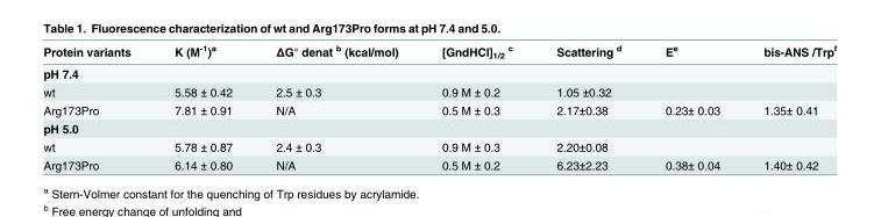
<table><thead><tr><td>Protein variants</td><td>K (M<sup>-1</sup>)<sup>a</sup></td><td>ΔG° denat <sup>b</sup> (kcal/mol)</td><td>[GndHCl]<sub>1/2</sub> <sup>c</sup></td><td>Scattering <sup>d</sup></td><td>E<sup>e</sup></td><td>bis-ANS /Trp<sup>f</sup></td></tr></thead><tbody><tr><td colspan="7">pH 7.4</td></tr><tr><td>wt</td><td>5.58 ± 0.42</td><td>2.5 ± 0.3</td><td>0.9 M ± 0.2</td><td>1.05 ±0.32</td><td></td><td></td></tr><tr><td>Arg173Pro</td><td>7.81 ± 0.91</td><td>N/A</td><td>0.5 M ± 0.3</td><td>2.17±0.38</td><td>0.23± 0.03</td><td>1.35± 0.41</td></tr><tr><td colspan="7">pH 5.0</td></tr><tr><td>wt</td><td>5.78 ± 0.87</td><td>2.4 ± 0.3</td><td>0.9 M ± 0.3</td><td>2.20±0.08</td><td></td><td></td></tr><tr><td>Arg173Pro</td><td>6.14 ± 0.80</td><td>N/A</td><td>0.5 M ± 0.2</td><td>6.23±2.23</td><td>0.38± 0.04</td><td>1.40± 0.42</td></tr></tbody></table>